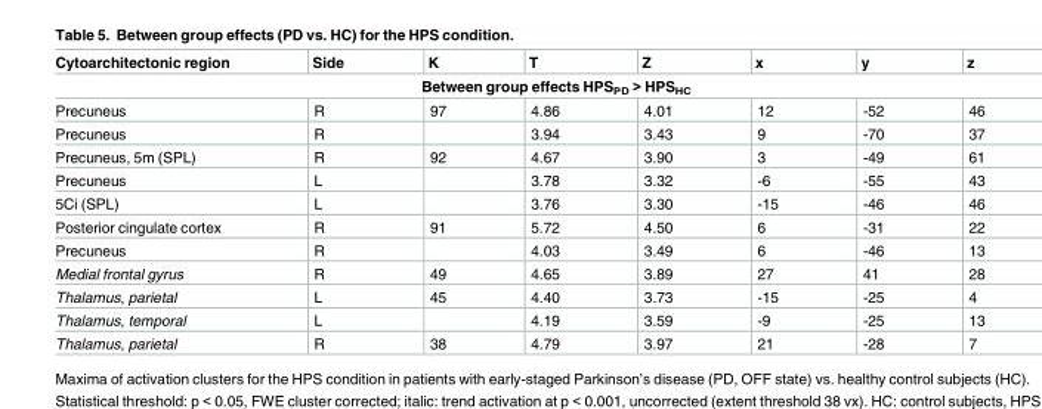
<table><thead><tr><td>Cytoarchitectonic region</td><td>Side</td><td>K</td><td>T</td><td>Z</td><td>x</td><td>y</td><td>z</td></tr><tr><td colspan="8">Between group effects HPS<sub>PD</sub> &gt; HPS<sub>HC</sub></td></tr></thead><tbody><tr><td>Precuneus</td><td>R</td><td>97</td><td>4.86</td><td>4.01</td><td>12</td><td>-52</td><td>46</td></tr><tr><td>Precuneus</td><td>R</td><td></td><td>3.94</td><td>3.43</td><td>9</td><td>-70</td><td>37</td></tr><tr><td>Precuneus, 5m (SPL)</td><td>R</td><td>92</td><td>4.67</td><td>3.90</td><td>3</td><td>-49</td><td>61</td></tr><tr><td>Precuneus</td><td>L</td><td></td><td>3.78</td><td>3.32</td><td>-6</td><td>-55</td><td>43</td></tr><tr><td>5Ci (SPL)</td><td>L</td><td></td><td>3.76</td><td>3.30</td><td>-15</td><td>-46</td><td>46</td></tr><tr><td>Posterior cingulate cortex</td><td>R</td><td>91</td><td>5.72</td><td>4.50</td><td>6</td><td>-31</td><td>22</td></tr><tr><td>Precuneus</td><td>R</td><td></td><td>4.03</td><td>3.49</td><td>6</td><td>-46</td><td>13</td></tr><tr><td>Medial frontal gyrus</td><td>R</td><td>49</td><td>4.65</td><td>3.89</td><td>27</td><td>41</td><td>28</td></tr><tr><td>Thalamus, parietal</td><td>L</td><td>45</td><td>4.40</td><td>3.73</td><td>-15</td><td>-25</td><td>4</td></tr><tr><td>Thalamus, temporal</td><td>L</td><td></td><td>4.19</td><td>3.59</td><td>-9</td><td>-25</td><td>13</td></tr><tr><td>Thalamus, parietal</td><td>R</td><td>38</td><td>4.79</td><td>3.97</td><td>21</td><td>-28</td><td>7</td></tr></tbody></table>